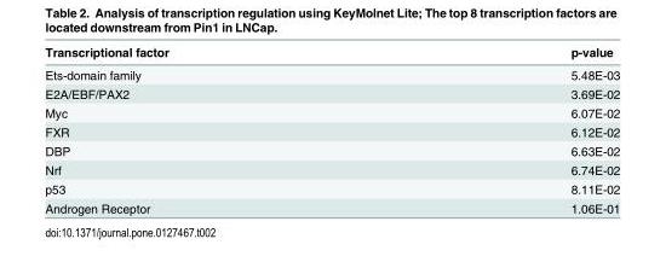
<table><thead><tr><td>Transcriptional factor</td><td>p-value</td></tr></thead><tbody><tr><td>Ets-domain family</td><td>5.48E-03</td></tr><tr><td>E2A/EBF/PAX2</td><td>3.69E-02</td></tr><tr><td>Myc</td><td>6.07E-02</td></tr><tr><td>FXR</td><td>6.12E-02</td></tr><tr><td>DBP</td><td>6.63E-02</td></tr><tr><td>Nrf</td><td>6.74E-02</td></tr><tr><td>p53</td><td>8.11E-02</td></tr><tr><td>Androgen Receptor</td><td>1.06E-01</td></tr></tbody></table>